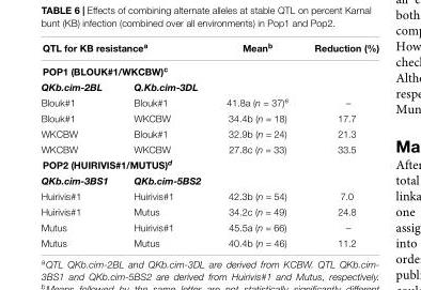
<table><thead><tr><td colspan="2">QTL for KB resistance<sup>a</sup></td><td>Mean<sup>b</sup></td><td>Reduction (%)</td></tr><tr><td colspan="4">POP1 (BLOUK#1/WKCBW)<sup>c</sup></td></tr><tr><td>QKb.cim-2BL</td><td>Q.Kb.cim-3DL</td><td></td><td></td></tr></thead><tbody><tr><td>Blouk#1</td><td>Blouk#1</td><td>41.8a (n = 37)<sup>e</sup></td><td>–</td></tr><tr><td>Blouk#1</td><td>WKCBW</td><td>34.4b (n = 18)</td><td>17.7</td></tr><tr><td>WKCBW</td><td>Blouk#1</td><td>32.9b (n = 24)</td><td>21.3</td></tr><tr><td>WKCBW</td><td>WKCBW</td><td>27.8c (n = 33)</td><td>33.5</td></tr><tr><td colspan="4">POP2 (HUIRIVIS#1/MUTUS)<sup>d</sup></td></tr><tr><td>QKb.cim-3BS1</td><td>QKb.cim-5BS2</td><td></td><td></td></tr><tr><td>Huirivis#1</td><td>Huirivis#1</td><td>42.3b (n = 54)</td><td>7.0</td></tr><tr><td>Huirivis#1</td><td>Mutus</td><td>34.2c (n = 49)</td><td>24.8</td></tr><tr><td>Mutus</td><td>Huirivis#1</td><td>45.5a (n = 66)</td><td>–</td></tr><tr><td>Mutus</td><td>Mutus</td><td>40.4b (n = 46)</td><td>11.2</td></tr></tbody></table>